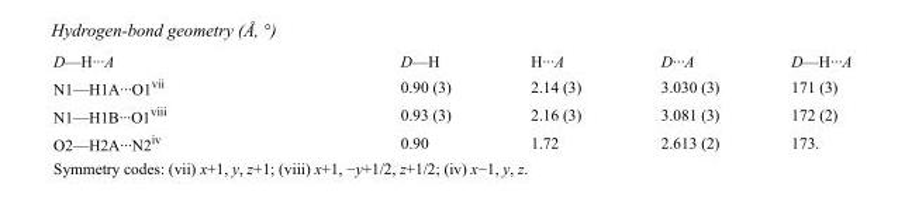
<table><tbody><tr><td>D—H···A</td><td>D—H</td><td>H···A</td><td>D···A</td><td>D—H···A</td></tr><tr><td>N1—H1A···O1<sup>vii</sup></td><td>0.90 (3)</td><td>2.14 (3)</td><td>3.030 (3)</td><td>171 (3)</td></tr><tr><td>N1—H1B···O1<sup>viii</sup></td><td>0.93 (3)</td><td>2.16 (3)</td><td>3.081 (3)</td><td>172 (2)</td></tr><tr><td>O2—H2A···N2<sup>iv</sup></td><td>0.90</td><td>1.72</td><td>2.613 (2)</td><td>173.</td></tr></tbody></table>